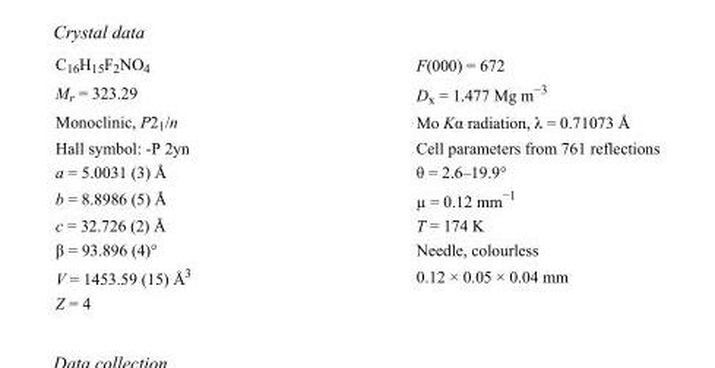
<table><tbody><tr><td>C<sub>16</sub>H<sub>15</sub>F<sub>2</sub>NO<sub>4</sub></td><td>F(000) = 672</td></tr><tr><td>M<sub>r</sub> = 323.29</td><td>D<sub>x</sub> = 1.477 Mg m<sup>−3</sup></td></tr><tr><td>Monoclinic, P2<sub>1</sub>/n</td><td>Mo Kα radiation, λ = 0.71073 Å</td></tr><tr><td>Hall symbol: -P 2yn</td><td>Cell parameters from 761 reflections</td></tr><tr><td>a = 5.0031 (3) Å</td><td>θ = 2.6–19.9°</td></tr><tr><td>b = 8.8986 (5) Å</td><td>µ = 0.12 mm<sup>−1</sup></td></tr><tr><td>c = 32.726 (2) Å</td><td>T = 174 K</td></tr><tr><td>β = 93.896 (4)°</td><td>Needle, colourless</td></tr><tr><td>V = 1453.59 (15) Å<sup>3</sup></td><td>0.12 × 0.05 × 0.04 mm</td></tr><tr><td>Z = 4</td><td></td></tr></tbody></table>